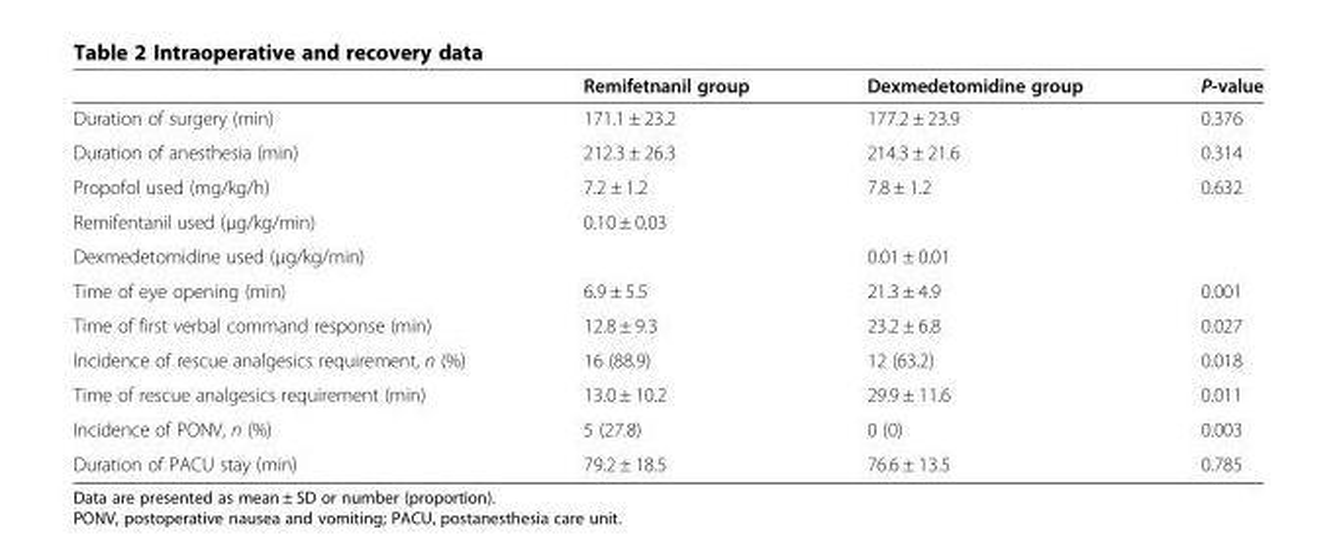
<table><thead><tr><td></td><td>Remifetnanil group</td><td>Dexmedetomidine group</td><td>P-value</td></tr></thead><tbody><tr><td>Duration of surgery (min)</td><td>171.1 ± 23.2</td><td>177.2 ± 23.9</td><td>0.376</td></tr><tr><td>Duration of anesthesia (min)</td><td>212.3 ± 26.3</td><td>214.3 ± 21.6</td><td>0.314</td></tr><tr><td>Propofol used (mg/kg/h)</td><td>7.2 ± 1.2</td><td>7.8 ± 1.2</td><td>0.632</td></tr><tr><td>Remifentanil used (μg/kg/min)</td><td>0.10 ± 0.03</td><td></td><td></td></tr><tr><td>Dexmedetomidine used (μg/kg/min)</td><td></td><td>0.01 ± 0.01</td><td></td></tr><tr><td>Time of eye opening (min)</td><td>6.9 ± 5.5</td><td>21.3 ± 4.9</td><td>0.001</td></tr><tr><td>Time of first verbal command response (min)</td><td>12.8 ± 9.3</td><td>23.2 ± 6.8</td><td>0.027</td></tr><tr><td>Incidence of rescue analgesics requirement, n (%)</td><td>16 (88.9)</td><td>12 (63.2)</td><td>0.018</td></tr><tr><td>Time of rescue analgesics requirement (min)</td><td>13.0 ± 10.2</td><td>29.9 ± 11.6</td><td>0.011</td></tr><tr><td>Incidence of PONV, n (%)</td><td>5 (27.8)</td><td>0 (0)</td><td>0.003</td></tr><tr><td>Duration of PACU stay (min)</td><td>79.2 ± 18.5</td><td>76.6 ± 13.5</td><td>0.785</td></tr></tbody></table>